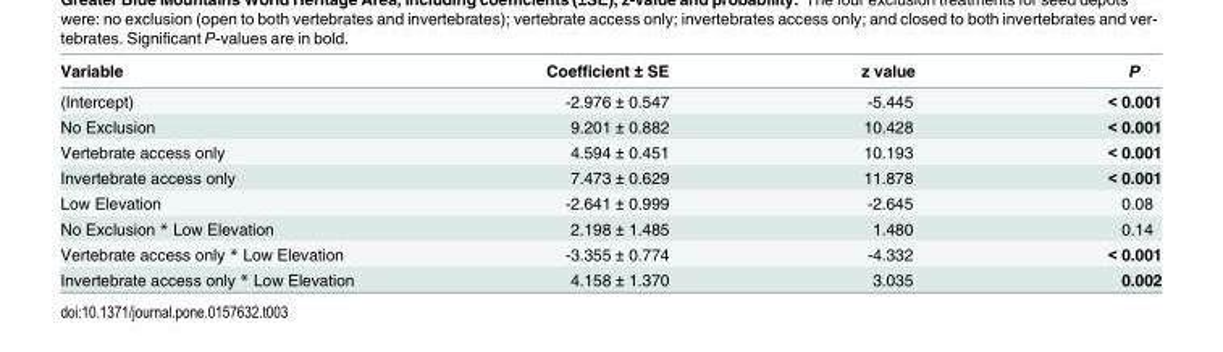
<table><thead><tr><td>Variable</td><td>Coefficient ± SE</td><td>z value</td><td>P</td></tr></thead><tbody><tr><td>(Intercept)</td><td>-2.976 ± 0.547</td><td>-5.445</td><td>&lt; 0.001</td></tr><tr><td>No Exclusion</td><td>9.201 ± 0.882</td><td>10.428</td><td>&lt; 0.001</td></tr><tr><td>Vertebrate access only</td><td>4.594 ± 0.451</td><td>10.193</td><td>&lt; 0.001</td></tr><tr><td>Invertebrate access only</td><td>7.473 ± 0.629</td><td>11.878</td><td>&lt; 0.001</td></tr><tr><td>Low Elevation</td><td>-2.641 ± 0.999</td><td>-2.645</td><td>0.08</td></tr><tr><td>No Exclusion * Low Elevation</td><td>2.198 ± 1.485</td><td>1.480</td><td>0.14</td></tr><tr><td>Vertebrate access only * Low Elevation</td><td>-3.355 ± 0.774</td><td>-4.332</td><td>&lt; 0.001</td></tr><tr><td>Invertebrate access only * Low Elevation</td><td>4.158 ± 1.370</td><td>3.035</td><td>0.002</td></tr></tbody></table>